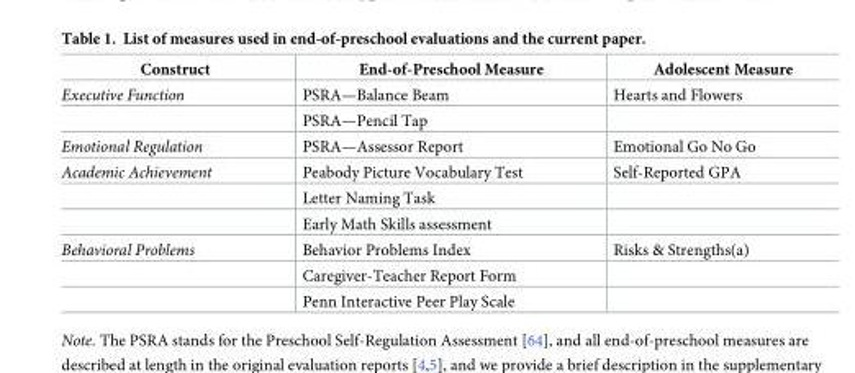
<table><thead><tr><td>Construct</td><td>End-of-Preschool Measure</td><td>Adolescent Measure</td></tr></thead><tbody><tr><td rowspan="2">Executive Function</td><td>PSRA—Balance Beam</td><td>Hearts and Flowers</td></tr><tr><td>PSRA—Pencil Tap</td><td></td></tr><tr><td>Emotional Regulation</td><td>PSRA—Assessor Report</td><td>Emotional Go No Go</td></tr><tr><td rowspan="3">Academic Achievement</td><td>Peabody Picture Vocabulary Test</td><td>Self-Reported GPA</td></tr><tr><td>Letter Naming Task</td><td></td></tr><tr><td>Early Math Skills assessment</td><td></td></tr><tr><td rowspan="3">Behavioral Problems</td><td>Behavior Problems Index</td><td>Risks &amp; Strengths(a)</td></tr><tr><td>Caregiver-Teacher Report Form</td><td></td></tr><tr><td>Penn Interactive Peer Play Scale</td><td></td></tr></tbody></table>